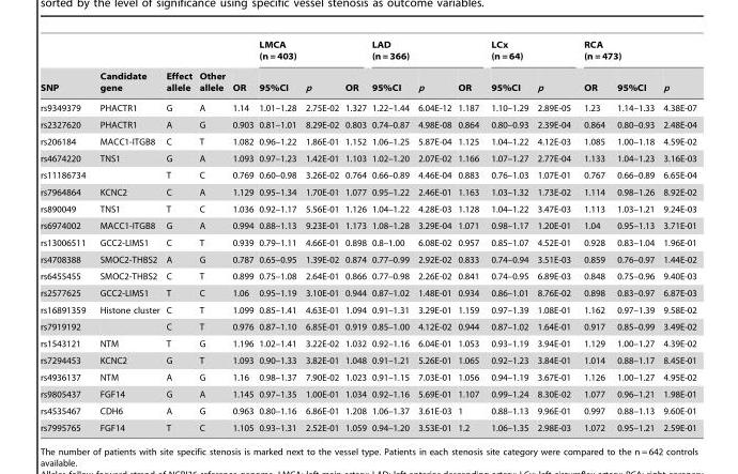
<table><thead><tr><td rowspan="2">SNP</td><td rowspan="2">Candidate gene</td><td rowspan="2">Effect allele</td><td rowspan="2">Other allele</td><td rowspan="2">OR</td><td colspan="3">LMCA (n = 403)</td><td colspan="3">LAD (n = 366)</td><td colspan="2">LCx (n = 64)</td><td colspan="3">RCA (n = 473)</td></tr><tr><td>95%CI</td><td>p</td><td>OR</td><td>95%CI</td><td>p</td><td>OR</td><td>95%CI</td><td>p</td><td>OR</td><td>95%CI</td><td>p</td></tr></thead><tbody><tr><td>rs9349379</td><td>PHACTR1</td><td>G</td><td>A</td><td>1.14</td><td>1.01–1.28</td><td>2.75E-02</td><td>1.327</td><td>1.22–1.44</td><td>6.04E-12</td><td>1.187</td><td>1.10–1.29</td><td>2.89E-05</td><td>1.23</td><td>1.14–1.33</td><td>4.38E-07</td></tr><tr><td>rs2327620</td><td>PHACTR1</td><td>A</td><td>G</td><td>0.903</td><td>0.81–1.01</td><td>8.29E-02</td><td>0.803</td><td>0.74–0.87</td><td>4.98E-08</td><td>0.864</td><td>0.80–0.93</td><td>2.39E-04</td><td>0.864</td><td>0.80–0.93</td><td>2.48E-04</td></tr><tr><td>rs206184</td><td>MACC1-ITGB8</td><td>C</td><td>T</td><td>1.082</td><td>0.96–1.22</td><td>1.86E-01</td><td>1.152</td><td>1.06–1.25</td><td>5.87E-04</td><td>1.125</td><td>1.04–1.22</td><td>4.12E-03</td><td>1.085</td><td>1.00–1.18</td><td>4.59E-02</td></tr><tr><td>rs4674220</td><td>TNS1</td><td>G</td><td>A</td><td>1.093</td><td>0.97–1.23</td><td>1.42E-01</td><td>1.103</td><td>1.02–1.20</td><td>2.07E-02</td><td>1.166</td><td>1.07–1.27</td><td>2.77E-04</td><td>1.133</td><td>1.04–1.23</td><td>3.16E-03</td></tr><tr><td>rs11186734</td><td></td><td>T</td><td>C</td><td>0.769</td><td>0.60–0.98</td><td>3.26E-02</td><td>0.764</td><td>0.66–0.89</td><td>4.46E-04</td><td>0.883</td><td>0.76–1.03</td><td>1.07E-01</td><td>0.767</td><td>0.66–0.89</td><td>6.65E-04</td></tr><tr><td>rs7964864</td><td>KCNC2</td><td>C</td><td>A</td><td>1.129</td><td>0.95–1.34</td><td>1.70E-01</td><td>1.077</td><td>0.95–1.22</td><td>2.46E-01</td><td>1.163</td><td>1.03–1.32</td><td>1.73E-02</td><td>1.114</td><td>0.98–1.26</td><td>8.92E-02</td></tr><tr><td>rs890049</td><td>TNS1</td><td>T</td><td>C</td><td>1.036</td><td>0.92–1.17</td><td>5.56E-01</td><td>1.126</td><td>1.04–1.22</td><td>4.28E-03</td><td>1.128</td><td>1.04–1.22</td><td>3.47E-03</td><td>1.113</td><td>1.03–1.21</td><td>9.24E-03</td></tr><tr><td>rs6974002</td><td>MACC1-ITGB8</td><td>G</td><td>A</td><td>0.994</td><td>0.88–1.13</td><td>9.23E-01</td><td>1.173</td><td>1.08–1.28</td><td>3.29E-04</td><td>1.071</td><td>0.98–1.17</td><td>1.20E-01</td><td>1.04</td><td>0.95–1.13</td><td>3.71E-01</td></tr><tr><td>rs13006511</td><td>GCC2-LIMS1</td><td>C</td><td>T</td><td>0.939</td><td>0.79–1.11</td><td>4.66E-01</td><td>0.898</td><td>0.8–1.00</td><td>6.08E-02</td><td>0.957</td><td>0.85–1.07</td><td>4.52E-01</td><td>0.928</td><td>0.83–1.04</td><td>1.96E-01</td></tr><tr><td>rs4708388</td><td>SMOC2-THBS2</td><td>A</td><td>G</td><td>0.787</td><td>0.65–0.95</td><td>1.39E-02</td><td>0.874</td><td>0.77–0.99</td><td>2.92E-02</td><td>0.833</td><td>0.74–0.94</td><td>3.51E-03</td><td>0.859</td><td>0.76–0.97</td><td>1.44E-02</td></tr><tr><td>rs6455455</td><td>SMOC2-THBS2</td><td>C</td><td>T</td><td>0.899</td><td>0.75–1.08</td><td>2.64E-01</td><td>0.866</td><td>0.77–0.98</td><td>2.26E-02</td><td>0.841</td><td>0.74–0.95</td><td>6.89E-03</td><td>0.848</td><td>0.75–0.96</td><td>9.40E-03</td></tr><tr><td>rs2577625</td><td>GCC2-LIMS1</td><td>T</td><td>C</td><td>1.06</td><td>0.95–1.19</td><td>3.10E-01</td><td>0.944</td><td>0.87–1.02</td><td>1.48E-01</td><td>0.934</td><td>0.86–1.01</td><td>8.76E-02</td><td>0.898</td><td>0.83–0.97</td><td>6.87E-03</td></tr><tr><td>rs16891359</td><td>Histone cluster</td><td>C</td><td>T</td><td>1.099</td><td>0.85–1.41</td><td>4.63E-01</td><td>1.094</td><td>0.91–1.31</td><td>3.29E-01</td><td>1.159</td><td>0.97–1.39</td><td>1.08E-01</td><td>1.162</td><td>0.97–1.39</td><td>9.58E-02</td></tr><tr><td>rs7919192</td><td></td><td>C</td><td>T</td><td>0.976</td><td>0.87–1.10</td><td>6.85E-01</td><td>0.919</td><td>0.85–1.00</td><td>4.12E-02</td><td>0.944</td><td>0.87–1.02</td><td>1.64E-01</td><td>0.917</td><td>0.85–0.99</td><td>3.49E-02</td></tr><tr><td>rs1543121</td><td>NTM</td><td>T</td><td>G</td><td>1.196</td><td>1.02–1.41</td><td>3.22E-02</td><td>1.032</td><td>0.92–1.16</td><td>6.04E-01</td><td>1.053</td><td>0.93–1.19</td><td>3.94E-01</td><td>1.129</td><td>1.00–1.27</td><td>4.39E-02</td></tr><tr><td>rs7294453</td><td>KCNC2</td><td>G</td><td>T</td><td>1.093</td><td>0.90–1.33</td><td>3.82E-01</td><td>1.048</td><td>0.91–1.21</td><td>5.26E-01</td><td>1.065</td><td>0.92–1.23</td><td>3.84E-01</td><td>1.014</td><td>0.88–1.17</td><td>8.45E-01</td></tr><tr><td>rs4936137</td><td>NTM</td><td>A</td><td>G</td><td>1.16</td><td>0.98–1.37</td><td>7.90E-02</td><td>1.023</td><td>0.91–1.15</td><td>7.03E-01</td><td>1.056</td><td>0.94–1.19</td><td>3.67E-01</td><td>1.126</td><td>1.00–1.27</td><td>4.95E-02</td></tr><tr><td>rs9805437</td><td>FGF14</td><td>G</td><td>A</td><td>1.145</td><td>0.97–1.35</td><td>1.00E-01</td><td>1.034</td><td>0.92–1.16</td><td>5.69E-01</td><td>1.107</td><td>0.99–1.24</td><td>8.30E-02</td><td>1.077</td><td>0.96–1.21</td><td>1.98E-01</td></tr><tr><td>rs4535467</td><td>CDH6</td><td>A</td><td>G</td><td>0.963</td><td>0.80–1.16</td><td>6.86E-01</td><td>1.208</td><td>1.06–1.37</td><td>3.61E-03</td><td>1</td><td>0.88–1.13</td><td>9.96E-01</td><td>0.997</td><td>0.88–1.13</td><td>9.60E-01</td></tr><tr><td>rs7995765</td><td>FGF14</td><td>T</td><td>C</td><td>1.105</td><td>0.93–1.31</td><td>2.52E-01</td><td>1.059</td><td>0.94–1.20</td><td>3.53E-01</td><td>1.2</td><td>1.06–1.35</td><td>2.98E-03</td><td>1.072</td><td>0.95–1.21</td><td>2.59E-01</td></tr></tbody></table>